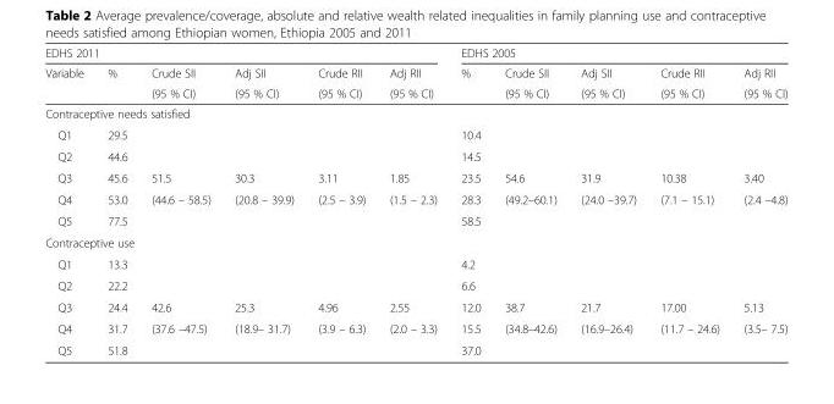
<table><thead><tr><td colspan="6">EDHS 2011</td><td colspan="5">EDHS 2005</td></tr><tr><td rowspan="2">Variable</td><td rowspan="2">%</td><td rowspan="2">Crude SII (95 % CI)</td><td rowspan="2">Adj SII (95 % CI)</td><td rowspan="2">Crude RII (95 % CI)</td><td rowspan="2">Adj RII (95 % CI)</td><td rowspan="2">%</td><td rowspan="2">Crude SII (95 % CI)</td><td rowspan="2">Adj SII (95 % CI)</td><td rowspan="2">Crude RII (95 % CI)</td><td rowspan="2">Adj RII (95 % CI)</td></tr><tr></tr></thead><tbody><tr><td colspan="11">Contraceptive needs satisfied</td></tr><tr><td>Q1</td><td>29.5</td><td></td><td></td><td></td><td></td><td>10.4</td><td></td><td></td><td></td><td></td></tr><tr><td>Q2</td><td>44.6</td><td></td><td></td><td></td><td></td><td>14.5</td><td></td><td></td><td></td><td></td></tr><tr><td>Q3</td><td>45.6</td><td>51.5</td><td>30.3</td><td>3.11</td><td>1.85</td><td>23.5</td><td>54.6</td><td>31.9</td><td>10.38</td><td>3.40</td></tr><tr><td>Q4</td><td>53.0</td><td>(44.6 – 58.5)</td><td>(20.8 – 39.9)</td><td>(2.5 – 3.9)</td><td>(1.5 – 2.3)</td><td>28.3</td><td>(49.2–60.1)</td><td>(24.0 –39.7)</td><td>(7.1 – 15.1)</td><td>(2.4 –4.8)</td></tr><tr><td>Q5</td><td>77.5</td><td></td><td></td><td></td><td></td><td>58.5</td><td></td><td></td><td></td><td></td></tr><tr><td colspan="11">Contraceptive use</td></tr><tr><td>Q1</td><td>13.3</td><td></td><td></td><td></td><td></td><td>4.2</td><td></td><td></td><td></td><td></td></tr><tr><td>Q2</td><td>22.2</td><td></td><td></td><td></td><td></td><td>6.6</td><td></td><td></td><td></td><td></td></tr><tr><td>Q3</td><td>24.4</td><td>42.6</td><td>25.3</td><td>4.96</td><td>2.55</td><td>12.0</td><td>38.7</td><td>21.7</td><td>17.00</td><td>5.13</td></tr><tr><td>Q4</td><td>31.7</td><td>(37.6 –47.5)</td><td>(18.9– 31.7)</td><td>(3.9 – 6.3)</td><td>(2.0 – 3.3)</td><td>15.5</td><td>(34.8–42.6)</td><td>(16.9–26.4)</td><td>(11.7 – 24.6)</td><td>(3.5– 7.5)</td></tr><tr><td>Q5</td><td>51.8</td><td></td><td></td><td></td><td></td><td>37.0</td><td></td><td></td><td></td><td></td></tr></tbody></table>